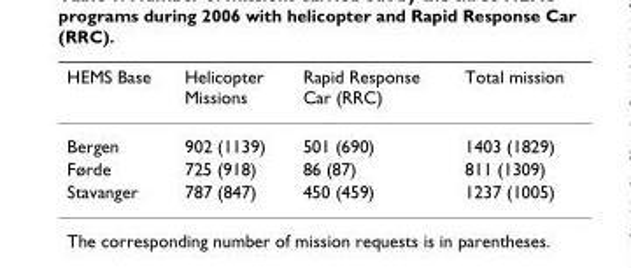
<table><thead><tr><td>HEMS Base</td><td>Helicopter Missions</td><td>Rapid Response Car (RRC)</td><td>Total mission</td></tr></thead><tbody><tr><td>Bergen</td><td>902 (1139)</td><td>501 (690)</td><td>1403 (1829)</td></tr><tr><td>Førde</td><td>725 (918)</td><td>86 (87)</td><td>811 (1309)</td></tr><tr><td>Stavanger</td><td>787 (847)</td><td>450 (459)</td><td>1237 (1005)</td></tr></tbody></table>